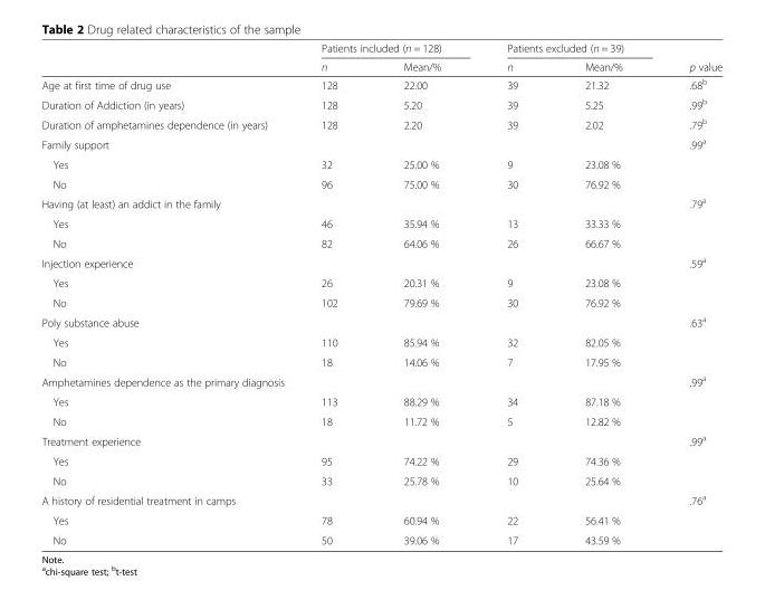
<table><thead><tr><td rowspan="2"></td><td colspan="2">Patients included (n = 128)</td><td colspan="2">Patients excluded (n = 39)</td><td rowspan="2">p value</td></tr><tr><td>n</td><td>Mean/%</td><td>n</td><td>Mean/%</td></tr></thead><tbody><tr><td>Age at first time of drug use</td><td>128</td><td>22.00</td><td>39</td><td>21.32</td><td>.68<sup>b</sup></td></tr><tr><td>Duration of Addiction (in years)</td><td>128</td><td>5.20</td><td>39</td><td>5.25</td><td>.99<sup>b</sup></td></tr><tr><td>Duration of amphetamines dependence (in years)</td><td>128</td><td>2.20</td><td>39</td><td>2.02</td><td>.79<sup>b</sup></td></tr><tr><td>Family support</td><td></td><td></td><td></td><td></td><td>.99<sup>a</sup></td></tr><tr><td>Yes</td><td>32</td><td>25.00 %</td><td>9</td><td>23.08 %</td><td></td></tr><tr><td>No</td><td>96</td><td>75.00 %</td><td>30</td><td>76.92 %</td><td></td></tr><tr><td>Having (at least) an addict in the family</td><td></td><td></td><td></td><td></td><td>.79<sup>a</sup></td></tr><tr><td>Yes</td><td>46</td><td>35.94 %</td><td>13</td><td>33.33 %</td><td></td></tr><tr><td>No</td><td>82</td><td>64.06 %</td><td>26</td><td>66.67 %</td><td></td></tr><tr><td>Injection experience</td><td></td><td></td><td></td><td></td><td>.59<sup>a</sup></td></tr><tr><td>Yes</td><td>26</td><td>20.31 %</td><td>9</td><td>23.08 %</td><td></td></tr><tr><td>No</td><td>102</td><td>79.69 %</td><td>30</td><td>76.92 %</td><td></td></tr><tr><td>Poly substance abuse</td><td></td><td></td><td></td><td></td><td>.63<sup>a</sup></td></tr><tr><td>Yes</td><td>110</td><td>85.94 %</td><td>32</td><td>82.05 %</td><td></td></tr><tr><td>No</td><td>18</td><td>14.06 %</td><td>7</td><td>17.95 %</td><td></td></tr><tr><td>Amphetamines dependence as the primary diagnosis</td><td></td><td></td><td></td><td></td><td>.99<sup>a</sup></td></tr><tr><td>Yes</td><td>113</td><td>88.29 %</td><td>34</td><td>87.18 %</td><td></td></tr><tr><td>No</td><td>18</td><td>11.72 %</td><td>5</td><td>12.82 %</td><td></td></tr><tr><td>Treatment experience</td><td></td><td></td><td></td><td></td><td>.99<sup>a</sup></td></tr><tr><td>Yes</td><td>95</td><td>74.22 %</td><td>29</td><td>74.36 %</td><td></td></tr><tr><td>No</td><td>33</td><td>25.78 %</td><td>10</td><td>25.64 %</td><td></td></tr><tr><td>A history of residential treatment in camps</td><td></td><td></td><td></td><td></td><td>.76<sup>a</sup></td></tr><tr><td>Yes</td><td>78</td><td>60.94 %</td><td>22</td><td>56.41 %</td><td></td></tr><tr><td>No</td><td>50</td><td>39.06 %</td><td>17</td><td>43.59 %</td><td></td></tr></tbody></table>